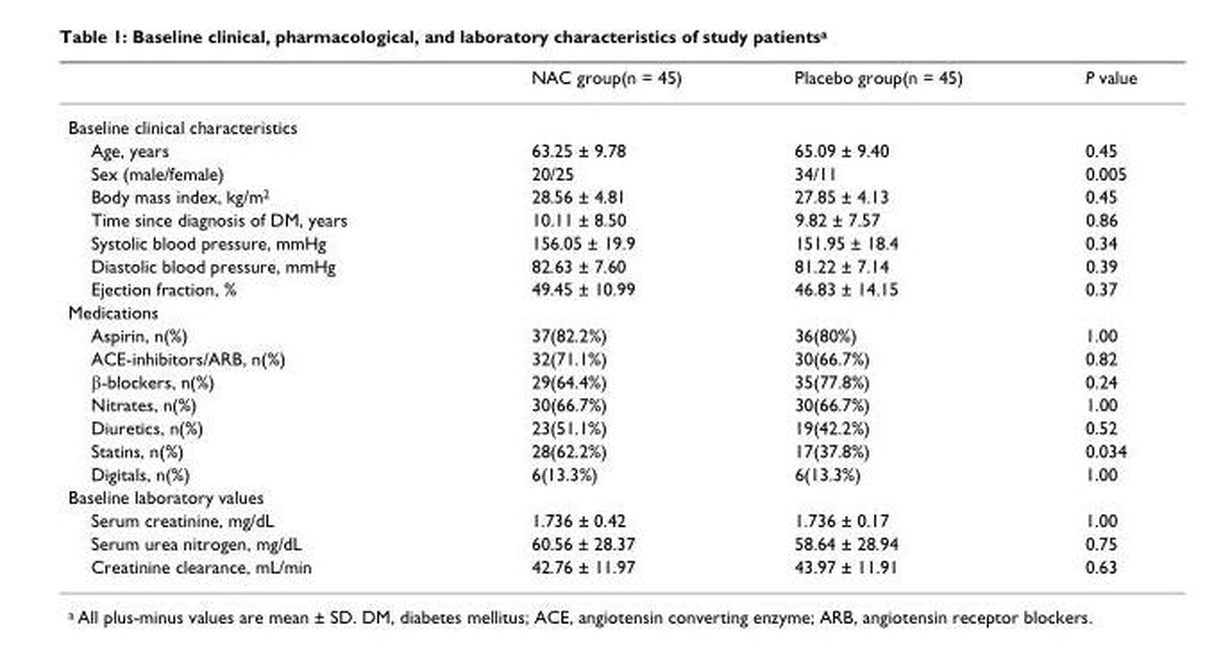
<table><thead><tr><td></td><td>NAC group(n = 45)</td><td>Placebo group(n = 45)</td><td>P value</td></tr></thead><tbody><tr><td colspan="4">Baseline clinical characteristics</td></tr><tr><td>Age, years</td><td>63.25 ± 9.78</td><td>65.09 ± 9.40</td><td>0.45</td></tr><tr><td>Sex (male/female)</td><td>20/25</td><td>34/11</td><td>0.005</td></tr><tr><td>Body mass index, kg/m<sup>2</sup></td><td>28.56 ± 4.81</td><td>27.85 ± 4.13</td><td>0.45</td></tr><tr><td>Time since diagnosis of DM, years</td><td>10.11 ± 8.50</td><td>9.82 ± 7.57</td><td>0.86</td></tr><tr><td>Systolic blood pressure, mmHg</td><td>156.05 ± 19.9</td><td>151.95 ± 18.4</td><td>0.34</td></tr><tr><td>Diastolic blood pressure, mmHg</td><td>82.63 ± 7.60</td><td>81.22 ± 7.14</td><td>0.39</td></tr><tr><td>Ejection fraction, %</td><td>49.45 ± 10.99</td><td>46.83 ± 14.15</td><td>0.37</td></tr><tr><td colspan="4">Medications</td></tr><tr><td>Aspirin, n(%)</td><td>37(82.2%)</td><td>36(80%)</td><td>1.00</td></tr><tr><td>ACE-inhibitors/ARB, n(%)</td><td>32(71.1%)</td><td>30(66.7%)</td><td>0.82</td></tr><tr><td>β-blockers, n(%)</td><td>29(64.4%)</td><td>35(77.8%)</td><td>0.24</td></tr><tr><td>Nitrates, n(%)</td><td>30(66.7%)</td><td>30(66.7%)</td><td>1.00</td></tr><tr><td>Diuretics, n(%)</td><td>23(51.1%)</td><td>19(42.2%)</td><td>0.52</td></tr><tr><td>Statins, n(%)</td><td>28(62.2%)</td><td>17(37.8%)</td><td>0.034</td></tr><tr><td>Digitals, n(%)</td><td>6(13.3%)</td><td>6(13.3%)</td><td>1.00</td></tr><tr><td colspan="4">Baseline laboratory values</td></tr><tr><td>Serum creatinine, mg/dL</td><td>1.736 ± 0.42</td><td>1.736 ± 0.17</td><td>1.00</td></tr><tr><td>Serum urea nitrogen, mg/dL</td><td>60.56 ± 28.37</td><td>58.64 ± 28.94</td><td>0.75</td></tr><tr><td>Creatinine clearance, mL/min</td><td>42.76 ± 11.97</td><td>43.97 ± 11.91</td><td>0.63</td></tr></tbody></table>